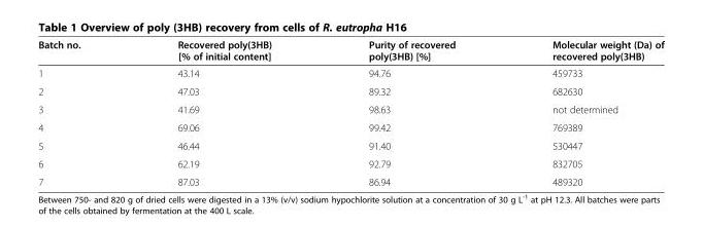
<table><thead><tr><td>Batch no.</td><td>Recovered poly(3HB) [% of initial content]</td><td>Purity of recovered poly(3HB) [%]</td><td>Molecular weight (Da) of recovered poly(3HB)</td></tr></thead><tbody><tr><td>1</td><td>43.14</td><td>94.76</td><td>459733</td></tr><tr><td>2</td><td>47.03</td><td>89.32</td><td>682630</td></tr><tr><td>3</td><td>41.69</td><td>98.63</td><td>not determined</td></tr><tr><td>4</td><td>69.06</td><td>99.42</td><td>769389</td></tr><tr><td>5</td><td>46.44</td><td>91.40</td><td>530447</td></tr><tr><td>6</td><td>62.19</td><td>92.79</td><td>832705</td></tr><tr><td>7</td><td>87.03</td><td>86.94</td><td>489320</td></tr></tbody></table>